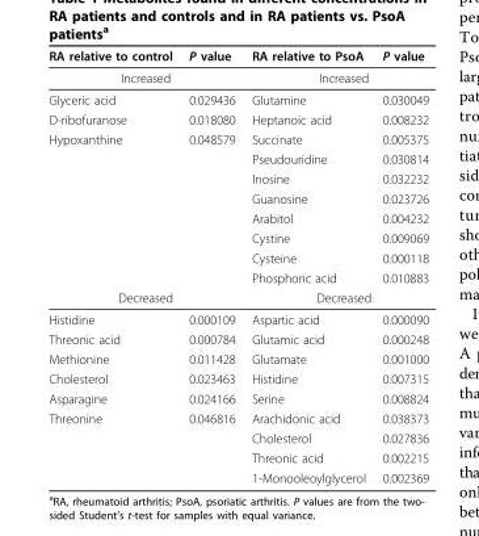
<table><thead><tr><td>RA relative to control</td><td>P value</td><td>RA relative to PsoA</td><td>P value</td></tr></thead><tbody><tr><td colspan="2">Increased</td><td colspan="2">Increased</td></tr><tr><td>Glyceric acid</td><td>0.029436</td><td>Glutamine</td><td>0.030049</td></tr><tr><td>D-ribofuranose</td><td>0.018080</td><td>Heptanoic acid</td><td>0.008232</td></tr><tr><td rowspan="8">Hypoxanthine</td><td>0.048579</td><td>Succinate</td><td>0.005375</td></tr><tr><td></td><td>Pseudouridine</td><td>0.030814</td></tr><tr><td></td><td>Inosine</td><td>0.032232</td></tr><tr><td></td><td>Guanosine</td><td>0.023726</td></tr><tr><td></td><td>Arabitol</td><td>0.004232</td></tr><tr><td></td><td>Cystine</td><td>0.009069</td></tr><tr><td></td><td>Cysteine</td><td>0.000118</td></tr><tr><td></td><td>Phosphoric acid</td><td>0.010883</td></tr><tr><td colspan="2">Decreased</td><td colspan="2">Decreased</td></tr><tr><td>Histidine</td><td>0.000109</td><td>Aspartic acid</td><td>0.000090</td></tr><tr><td>Threonic acid</td><td>0.000784</td><td>Glutamic acid</td><td>0.000248</td></tr><tr><td>Methionine</td><td>0.011428</td><td>Glutamate</td><td>0.001000</td></tr><tr><td>Cholesterol</td><td>0.023463</td><td>Histidine</td><td>0.007315</td></tr><tr><td>Asparagine</td><td>0.024166</td><td>Serine</td><td>0.008824</td></tr><tr><td rowspan="4">Threonine</td><td>0.046816</td><td>Arachidonic acid</td><td>0.038373</td></tr><tr><td></td><td>Cholesterol</td><td>0.027836</td></tr><tr><td></td><td>Threonic acid</td><td>0.002215</td></tr><tr><td></td><td>1-Monooleoylglycerol</td><td>0.002369</td></tr></tbody></table>